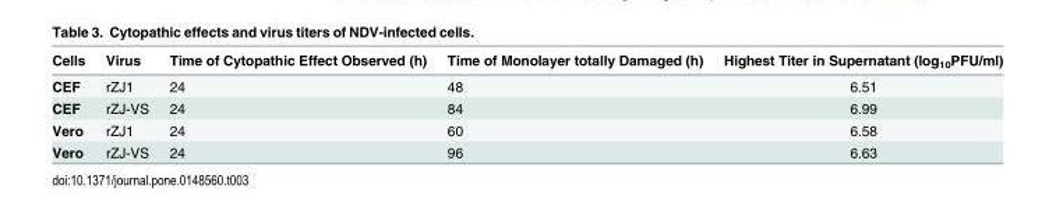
<table><thead><tr><td>Cells</td><td>Virus</td><td>Time of Cytopathic Effect Observed (h)</td><td>Time of Monolayer totally Damaged (h)</td><td>Highest Titer in Supernatant (log<sub>10</sub>PFU/ml)</td></tr></thead><tbody><tr><td>CEF</td><td>rZJ1</td><td>24</td><td>48</td><td>6.51</td></tr><tr><td>CEF</td><td>rZJ-VS</td><td>24</td><td>84</td><td>6.99</td></tr><tr><td>Vero</td><td>rZJ1</td><td>24</td><td>60</td><td>6.58</td></tr><tr><td>Vero</td><td>rZJ-VS</td><td>24</td><td>96</td><td>6.63</td></tr></tbody></table>